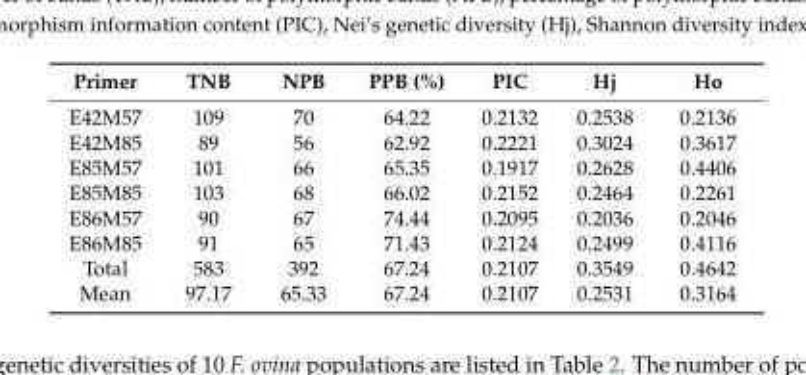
<table><thead><tr><td>Primer</td><td>TNB</td><td>NPB</td><td>PPB (%)</td><td>PIC</td><td>Hj</td><td>Ho</td></tr></thead><tbody><tr><td>E42M57</td><td>109</td><td>70</td><td>64.22</td><td>0.2132</td><td>0.2538</td><td>0.2136</td></tr><tr><td>E42M85</td><td>89</td><td>56</td><td>62.92</td><td>0.2221</td><td>0.3024</td><td>0.3617</td></tr><tr><td>E85M57</td><td>101</td><td>66</td><td>65.35</td><td>0.1917</td><td>0.2628</td><td>0.4406</td></tr><tr><td>E85M85</td><td>103</td><td>68</td><td>66.02</td><td>0.2152</td><td>0.2464</td><td>0.2261</td></tr><tr><td>E86M57</td><td>90</td><td>67</td><td>74.44</td><td>0.2095</td><td>0.2036</td><td>0.2046</td></tr><tr><td>E86M85</td><td>91</td><td>65</td><td>71.43</td><td>0.2124</td><td>0.2499</td><td>0.4116</td></tr><tr><td>Total</td><td>583</td><td>392</td><td>67.24</td><td>0.2107</td><td>0.3549</td><td>0.4642</td></tr><tr><td>Mean</td><td>97.17</td><td>65.33</td><td>67.24</td><td>0.2107</td><td>0.2531</td><td>0.3164</td></tr></tbody></table>